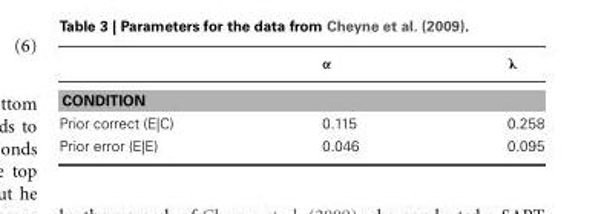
<table><thead><tr><td></td><td>α</td><td>λ</td></tr></thead><tbody><tr><td colspan="3">CONDITION</td></tr><tr><td>Prior correct (E|C)</td><td>0.115</td><td>0.258</td></tr><tr><td>Prior error (E|E)</td><td>0.046</td><td>0.095</td></tr></tbody></table>